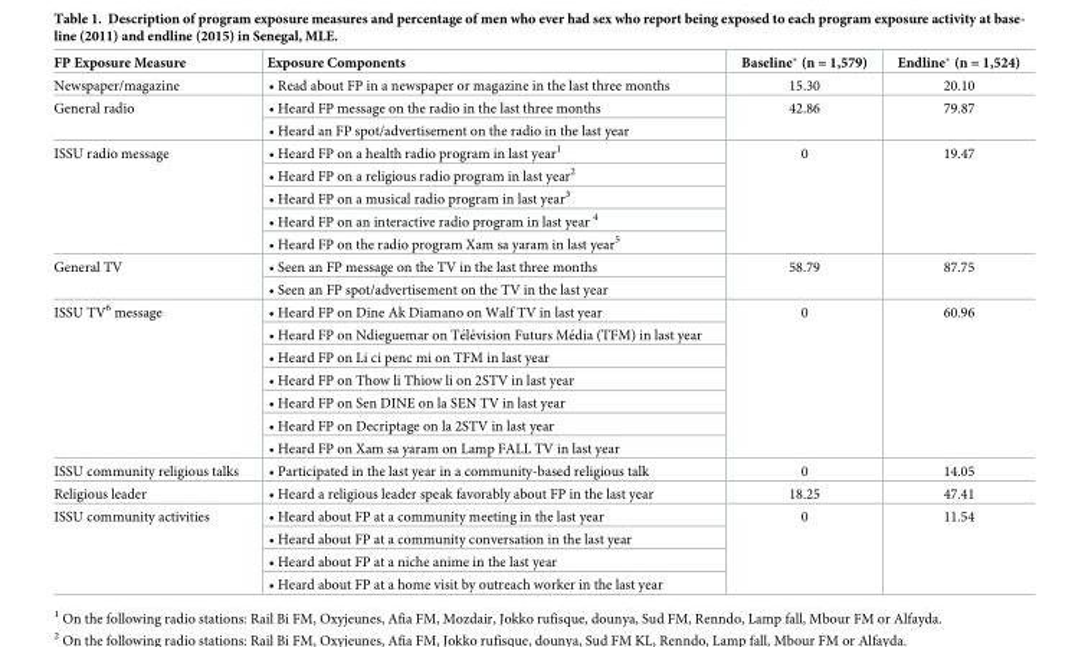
<table><thead><tr><td>FP Exposure Measure</td><td>Exposure Components</td><td>Baseline* (n = 1,579)</td><td>Endline* (n = 1,524)</td></tr></thead><tbody><tr><td>Newspaper/magazine</td><td>• Read about FP in a newspaper or magazine in the last three months</td><td>15.30</td><td>20.10</td></tr><tr><td rowspan="2">General radio</td><td>• Heard FP message on the radio in the last three months</td><td rowspan="2">42.86</td><td rowspan="2">79.87</td></tr><tr><td>• Heard an FP spot/advertisement on the radio in the last year</td></tr><tr><td rowspan="5">ISSU radio message</td><td>• Heard FP on a health radio program in last year<sup>1</sup></td><td rowspan="5">0</td><td rowspan="5">19.47</td></tr><tr><td>• Heard FP on a religious radio program in last year<sup>2</sup></td></tr><tr><td>• Heard FP on a musical radio program in last year<sup>3</sup></td></tr><tr><td>• Heard FP on an interactive radio program in last year <sup>4</sup></td></tr><tr><td>• Heard FP on the radio program Xam sa yaram in last year<sup>5</sup></td></tr><tr><td rowspan="2">General TV</td><td>• Seen an FP message on the TV in the last three months</td><td rowspan="2">58.79</td><td rowspan="2">87.75</td></tr><tr><td>• Seen an FP spot/advertisement on the TV in the last year</td></tr><tr><td rowspan="7">ISSU TV<sup>6</sup> message</td><td>• Heard FP on Dine Ak Diamano on Walf TV in last year</td><td rowspan="7">0</td><td rowspan="7">60.96</td></tr><tr><td>• Heard FP on Ndieguemar on Te´le´vision Futurs Me´dia (TFM) in last year</td></tr><tr><td>• Heard FP on Li ci penc mi on TFM in last year</td></tr><tr><td>• Heard FP on Thow li Thiow li on 2STV in last year</td></tr><tr><td>• Heard FP on Sen DINE on la SEN TV in last year</td></tr><tr><td>• Heard FP on Decriptage on la 2STV in last year</td></tr><tr><td>• Heard FP on Xam sa yaram on Lamp FALL TV in last year</td></tr><tr><td>ISSU community religious talks</td><td>• Participated in the last year in a community-based religious talk</td><td>0</td><td>14.05</td></tr><tr><td>Religious leader</td><td>• Heard a religious leader speak favorably about FP in the last year</td><td>18.25</td><td>47.41</td></tr><tr><td rowspan="4">ISSU community activities</td><td>• Heard about FP at a community meeting in the last year</td><td rowspan="4">0</td><td rowspan="4">11.54</td></tr><tr><td>• Heard about FP at a community conversation in the last year</td></tr><tr><td>• Heard about FP at a niche anime in the last year</td></tr><tr><td>• Heard about FP at a home visit by outreach worker in the last year</td></tr></tbody></table>